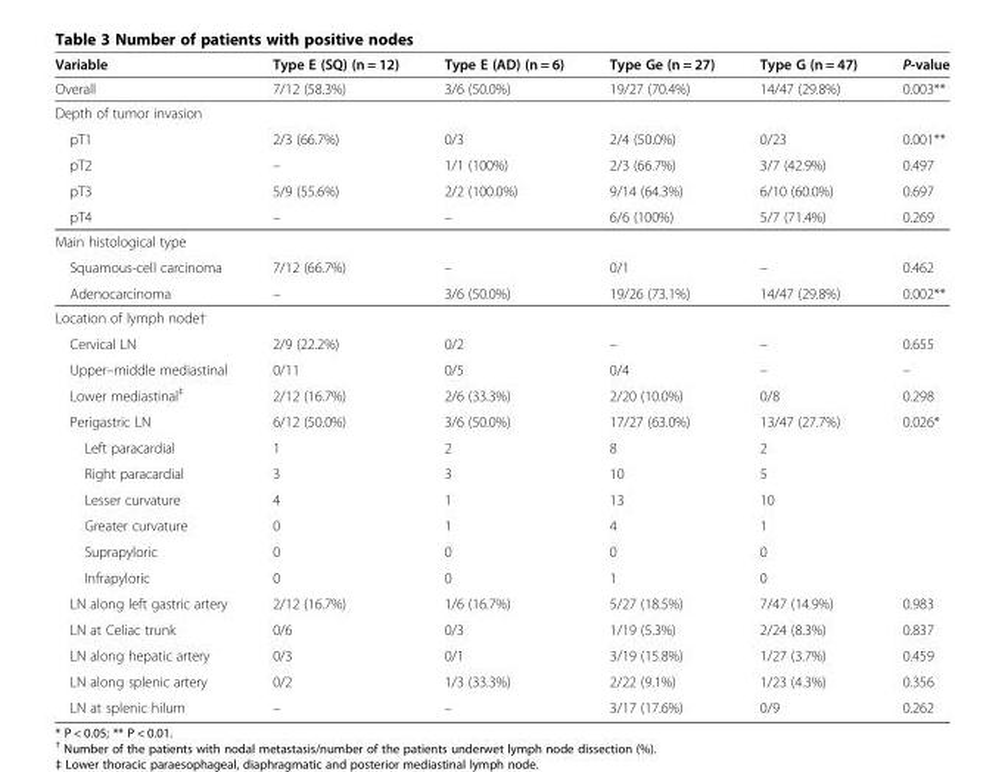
<table><thead><tr><td>Variable</td><td>Type E (SQ) (n = 12)</td><td>Type E (AD) (n = 6)</td><td>Type Ge (n = 27)</td><td>Type G (n = 47)</td><td>P-value</td></tr></thead><tbody><tr><td>Overall</td><td>7/12 (58.3%)</td><td>3/6 (50.0%)</td><td>19/27 (70.4%)</td><td>14/47 (29.8%)</td><td>0.003**</td></tr><tr><td colspan="6">Depth of tumor invasion</td></tr><tr><td>pT1</td><td>2/3 (66.7%)</td><td>0/3</td><td>2/4 (50.0%)</td><td>0/23</td><td>0.001**</td></tr><tr><td>pT2</td><td>–</td><td>1/1 (100%)</td><td>2/3 (66.7%)</td><td>3/7 (42.9%)</td><td>0.497</td></tr><tr><td>pT3</td><td>5/9 (55.6%)</td><td>2/2 (100.0%)</td><td>9/14 (64.3%)</td><td>6/10 (60.0%)</td><td>0.697</td></tr><tr><td>pT4</td><td>–</td><td>–</td><td>6/6 (100%)</td><td>5/7 (71.4%)</td><td>0.269</td></tr><tr><td colspan="6">Main histological type</td></tr><tr><td>Squamous-cell carcinoma</td><td>7/12 (66.7%)</td><td>–</td><td>0/1</td><td>–</td><td>0.462</td></tr><tr><td>Adenocarcinoma</td><td>–</td><td>3/6 (50.0%)</td><td>19/26 (73.1%)</td><td>14/47 (29.8%)</td><td>0.002**</td></tr><tr><td colspan="6">Location of lymph node†</td></tr><tr><td>Cervical LN</td><td>2/9 (22.2%)</td><td>0/2</td><td>–</td><td>–</td><td>0.655</td></tr><tr><td>Upper–middle mediastinal</td><td>0/11</td><td>0/5</td><td>0/4</td><td>–</td><td>–</td></tr><tr><td>Lower mediastinal<sup>‡</sup></td><td>2/12 (16.7%)</td><td>2/6 (33.3%)</td><td>2/20 (10.0%)</td><td>0/8</td><td>0.298</td></tr><tr><td>Perigastric LN</td><td>6/12 (50.0%)</td><td>3/6 (50.0%)</td><td>17/27 (63.0%)</td><td>13/47 (27.7%)</td><td>0.026*</td></tr><tr><td>Left paracardial</td><td>1</td><td>2</td><td>8</td><td>2</td><td></td></tr><tr><td>Right paracardial</td><td>3</td><td>3</td><td>10</td><td>5</td><td></td></tr><tr><td>Lesser curvature</td><td>4</td><td>1</td><td>13</td><td>10</td><td></td></tr><tr><td>Greater curvature</td><td>0</td><td>1</td><td>4</td><td>1</td><td></td></tr><tr><td>Suprapyloric</td><td>0</td><td>0</td><td>0</td><td>0</td><td></td></tr><tr><td>Infrapyloric</td><td>0</td><td>0</td><td>1</td><td>0</td><td></td></tr><tr><td>LN along left gastric artery</td><td>2/12 (16.7%)</td><td>1/6 (16.7%)</td><td>5/27 (18.5%)</td><td>7/47 (14.9%)</td><td>0.983</td></tr><tr><td>LN at Celiac trunk</td><td>0/6</td><td>0/3</td><td>1/19 (5.3%)</td><td>2/24 (8.3%)</td><td>0.837</td></tr><tr><td>LN along hepatic artery</td><td>0/3</td><td>0/1</td><td>3/19 (15.8%)</td><td>1/27 (3.7%)</td><td>0.459</td></tr><tr><td>LN along splenic artery</td><td>0/2</td><td>1/3 (33.3%)</td><td>2/22 (9.1%)</td><td>1/23 (4.3%)</td><td>0.356</td></tr><tr><td>LN at splenic hilum</td><td>–</td><td>–</td><td>3/17 (17.6%)</td><td>0/9</td><td>0.262</td></tr></tbody></table>